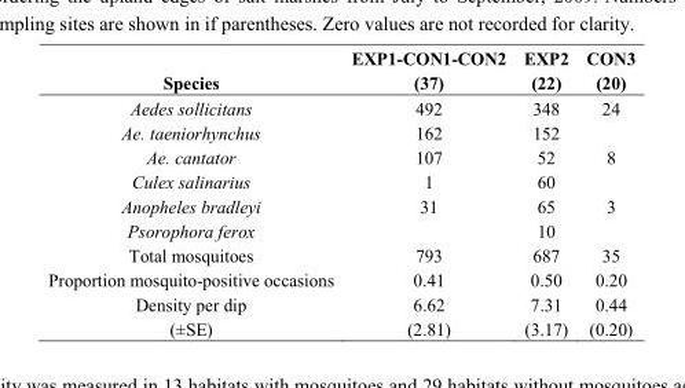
<table><thead><tr><td>Species</td><td>EXP1-CON1-CON2 (37)</td><td>EXP2 (22)</td><td>CON3 (20)</td></tr></thead><tbody><tr><td>Aedes sollicitans</td><td>492</td><td>348</td><td>24</td></tr><tr><td>Ae. taeniorhynchus</td><td>162</td><td>152</td><td></td></tr><tr><td>Ae. cantator</td><td>107</td><td>52</td><td>8</td></tr><tr><td>Culex salinarius</td><td>1</td><td>60</td><td></td></tr><tr><td>Anopheles bradleyi</td><td>31</td><td>65</td><td>3</td></tr><tr><td>Psorophora ferox</td><td></td><td>10</td><td></td></tr><tr><td>Total mosquitoes</td><td>793</td><td>687</td><td>35</td></tr><tr><td>Proportion mosquito-positive occasions</td><td>0.41</td><td>0.50</td><td>0.20</td></tr><tr><td>Density per dip (±SE)</td><td>6.62 (2.81)</td><td>7.31 (3.17)</td><td>0.44 (0.20)</td></tr></tbody></table>